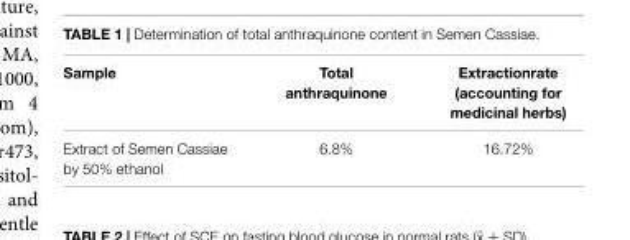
<table><thead><tr><td>Sample</td><td>Total anthraquinone</td><td>Extractionrate (accounting for medicinal herbs)</td></tr></thead><tbody><tr><td>Extract of Semen Cassiae by 50% ethanol</td><td>6.8%</td><td>16.72%</td></tr></tbody></table>